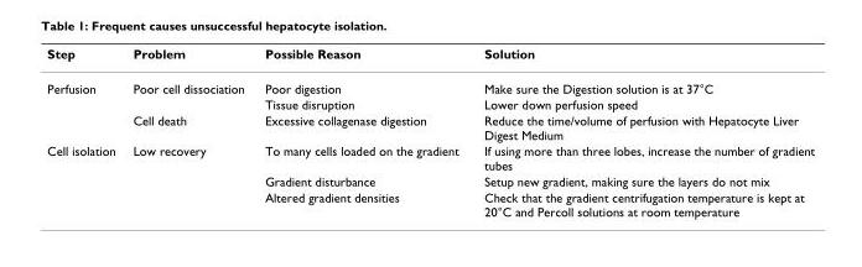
<table><thead><tr><td>Step</td><td>Problem</td><td>Possible Reason</td><td>Solution</td></tr></thead><tbody><tr><td rowspan="3">Perfusion</td><td>Poor cell dissociation</td><td>Poor digestion</td><td>Make sure the Digestion solution is at 37°C</td></tr><tr><td></td><td>Tissue disruption</td><td>Lower down perfusion speed</td></tr><tr><td>Cell death</td><td>Excessive collagenase digestion</td><td>Reduce the time/volume of perfusion with Hepatocyte Liver Digest Medium</td></tr><tr><td rowspan="3">Cell isolation</td><td>Low recovery</td><td>To many cells loaded on the gradient</td><td>If using more than three lobes, increase the number of gradient tubes</td></tr><tr><td></td><td>Gradient disturbance</td><td>Setup new gradient, making sure the layers do not mix</td></tr><tr><td></td><td>Altered gradient densities</td><td>Check that the gradient centrifugation temperature is kept at 20°C and Percoll solutions at room temperature</td></tr></tbody></table>